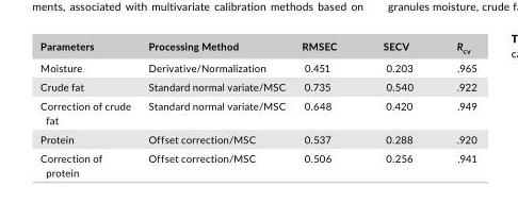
<table><thead><tr><td>Parameters</td><td>Processing Method</td><td>RMSEC</td><td>SECV</td><td>R<sub>cv</sub></td></tr></thead><tbody><tr><td>Moisture</td><td>Derivative/Normalization</td><td>0.451</td><td>0.203</td><td>.965</td></tr><tr><td>Crude fat</td><td>Standard normal variate/MSC</td><td>0.735</td><td>0.540</td><td>.922</td></tr><tr><td>Correction of crude fat</td><td>Standard normal variate/MSC</td><td>0.648</td><td>0.420</td><td>.949</td></tr><tr><td>Protein</td><td>Offset correction/MSC</td><td>0.537</td><td>0.288</td><td>.920</td></tr><tr><td>Correction of protein</td><td>Offset correction/MSC</td><td>0.506</td><td>0.256</td><td>.941</td></tr></tbody></table>